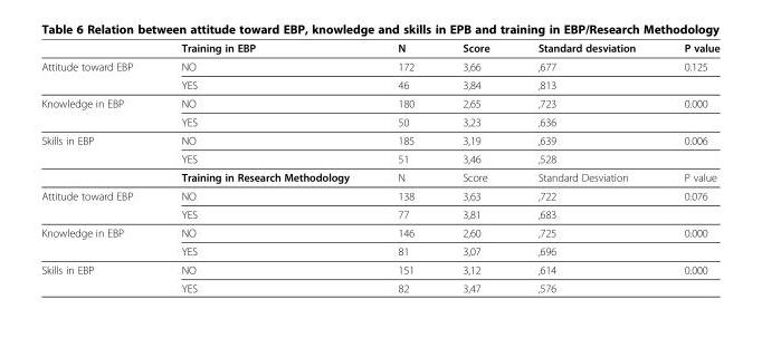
<table><thead><tr><td></td><td>Training in EBP</td><td>N</td><td>Score</td><td>Standard desviation</td><td>P value</td></tr></thead><tbody><tr><td rowspan="2">Attitude toward EBP</td><td>NO</td><td>172</td><td>3,66</td><td>,677</td><td>0.125</td></tr><tr><td>YES</td><td>46</td><td>3,84</td><td>,813</td><td></td></tr><tr><td rowspan="2">Knowledge in EBP</td><td>NO</td><td>180</td><td>2,65</td><td>,723</td><td>0.000</td></tr><tr><td>YES</td><td>50</td><td>3,23</td><td>,636</td><td></td></tr><tr><td rowspan="3">Skills in EBP</td><td>NO</td><td>185</td><td>3,19</td><td>,639</td><td>0.006</td></tr><tr><td>YES</td><td>51</td><td>3,46</td><td>,528</td><td></td></tr><tr><td>Training in Research Methodology</td><td>N</td><td>Score</td><td>Standard Desviation</td><td>P value</td></tr><tr><td rowspan="2">Attitude toward EBP</td><td>NO</td><td>138</td><td>3,63</td><td>,722</td><td>0.076</td></tr><tr><td>YES</td><td>77</td><td>3,81</td><td>,683</td><td></td></tr><tr><td rowspan="2">Knowledge in EBP</td><td>NO</td><td>146</td><td>2,60</td><td>,725</td><td>0.000</td></tr><tr><td>YES</td><td>81</td><td>3,07</td><td>,696</td><td></td></tr><tr><td rowspan="2">Skills in EBP</td><td>NO</td><td>151</td><td>3,12</td><td>,614</td><td>0.000</td></tr><tr><td>YES</td><td>82</td><td>3,47</td><td>,576</td><td></td></tr></tbody></table>